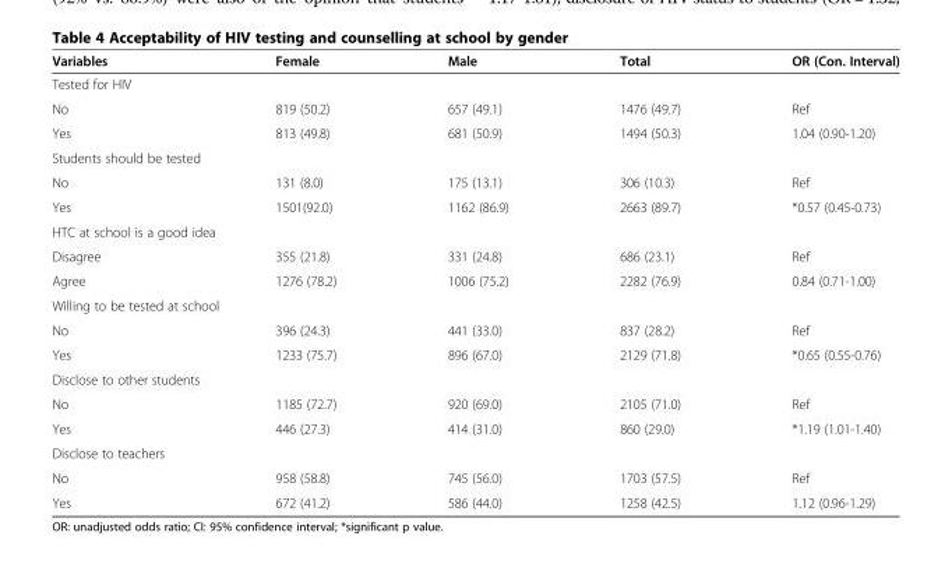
<table><thead><tr><td>Variables</td><td>Female</td><td>Male</td><td>Total</td><td>OR (Con. Interval)</td></tr></thead><tbody><tr><td colspan="5">Tested for HIV</td></tr><tr><td>No</td><td>819 (50.2)</td><td>657 (49.1)</td><td>1476 (49.7)</td><td>Ref</td></tr><tr><td>Yes</td><td>813 (49.8)</td><td>681 (50.9)</td><td>1494 (50.3)</td><td>1.04 (0.90-1.20)</td></tr><tr><td colspan="5">Students should be tested</td></tr><tr><td>No</td><td>131 (8.0)</td><td>175 (13.1)</td><td>306 (10.3)</td><td>Ref</td></tr><tr><td>Yes</td><td>1501(92.0)</td><td>1162 (86.9)</td><td>2663 (89.7)</td><td>*0.57 (0.45-0.73)</td></tr><tr><td colspan="5">HTC at school is a good idea</td></tr><tr><td>Disagree</td><td>355 (21.8)</td><td>331 (24.8)</td><td>686 (23.1)</td><td>Ref</td></tr><tr><td>Agree</td><td>1276 (78.2)</td><td>1006 (75.2)</td><td>2282 (76.9)</td><td>0.84 (0.71-1.00)</td></tr><tr><td colspan="5">Willing to be tested at school</td></tr><tr><td>No</td><td>396 (24.3)</td><td>441 (33.0)</td><td>837 (28.2)</td><td>Ref</td></tr><tr><td>Yes</td><td>1233 (75.7)</td><td>896 (67.0)</td><td>2129 (71.8)</td><td>*0.65 (0.55-0.76)</td></tr><tr><td colspan="5">Disclose to other students</td></tr><tr><td>No</td><td>1185 (72.7)</td><td>920 (69.0)</td><td>2105 (71.0)</td><td>Ref</td></tr><tr><td>Yes</td><td>446 (27.3)</td><td>414 (31.0)</td><td>860 (29.0)</td><td>*1.19 (1.01-1.40)</td></tr><tr><td colspan="5">Disclose to teachers</td></tr><tr><td>No</td><td>958 (58.8)</td><td>745 (56.0)</td><td>1703 (57.5)</td><td>Ref</td></tr><tr><td>Yes</td><td>672 (41.2)</td><td>586 (44.0)</td><td>1258 (42.5)</td><td>1.12 (0.96-1.29)</td></tr></tbody></table>